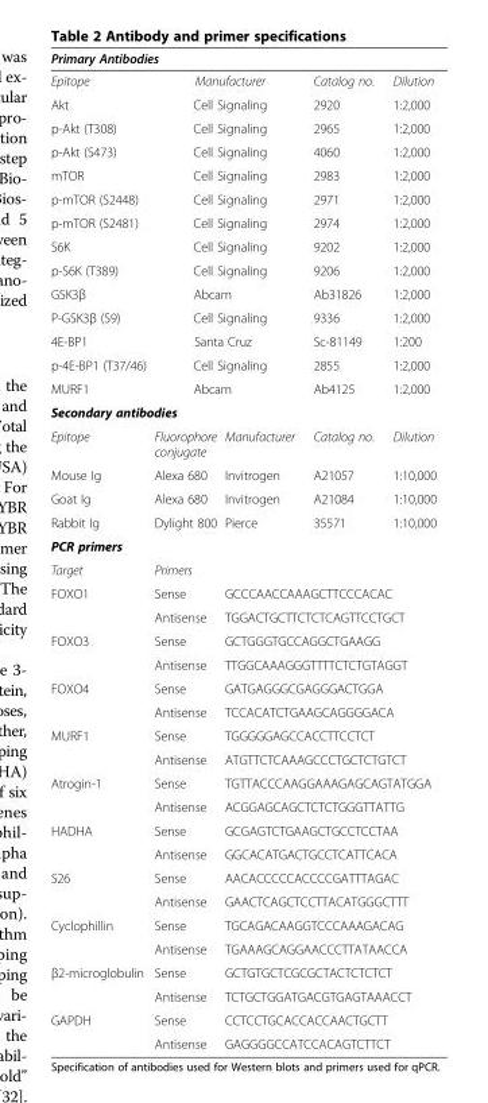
<table><thead><tr><td colspan="5">Primary Antibodies</td></tr></thead><tbody><tr><td>Epitope</td><td colspan="2">Manufacturer</td><td>Catalog no.</td><td>Dilution</td></tr><tr><td>Akt</td><td colspan="2">Cell Signaling</td><td>2920</td><td>1:2,000</td></tr><tr><td>p-Akt (T308)</td><td colspan="2">Cell Signaling</td><td>2965</td><td>1:2,000</td></tr><tr><td>p-Akt (S473)</td><td colspan="2">Cell Signaling</td><td>4060</td><td>1:2,000</td></tr><tr><td>mTOR</td><td colspan="2">Cell Signaling</td><td>2983</td><td>1:2,000</td></tr><tr><td>p-mTOR (S2448)</td><td colspan="2">Cell Signaling</td><td>2971</td><td>1:2,000</td></tr><tr><td>p-mTOR (S2481)</td><td colspan="2">Cell Signaling</td><td>2974</td><td>1:2,000</td></tr><tr><td>S6K</td><td colspan="2">Cell Signaling</td><td>9202</td><td>1:2,000</td></tr><tr><td>p-S6K (T389)</td><td colspan="2">Cell Signaling</td><td>9206</td><td>1:2,000</td></tr><tr><td>GSK3β</td><td colspan="2">Abcam</td><td>Ab31826</td><td>1:2,000</td></tr><tr><td>P-GSK3β (S9)</td><td colspan="2">Cell Signaling</td><td>9336</td><td>1:2,000</td></tr><tr><td>4E-BP1</td><td colspan="2">Santa Cruz</td><td>Sc-81149</td><td>1:200</td></tr><tr><td>p-4E-BP1 (T37/46)</td><td colspan="2">Cell Signaling</td><td>2855</td><td>1:2,000</td></tr><tr><td>MURF1</td><td colspan="2">Abcam</td><td>Ab4125</td><td>1:2,000</td></tr><tr><td colspan="5">Secondary antibodies</td></tr><tr><td>Epitope</td><td>Fluorophore conjugate</td><td>Manufacturer</td><td>Catalog no.</td><td>Dilution</td></tr><tr><td>Mouse Ig</td><td>Alexa 680</td><td>Invitrogen</td><td>A21057</td><td>1:10,000</td></tr><tr><td>Goat Ig</td><td>Alexa 680</td><td>Invitrogen</td><td>A21084</td><td>1:10,000</td></tr><tr><td>Rabbit Ig</td><td>Dylight 800</td><td>Pierce</td><td>35571</td><td>1:10,000</td></tr><tr><td colspan="5">PCR primers</td></tr><tr><td>Target</td><td colspan="4">Primers</td></tr><tr><td rowspan="2">FOXO1</td><td>Sense</td><td colspan="3">GCCCAACCAAAGCTTCCCACAC</td></tr><tr><td>Antisense</td><td colspan="3">TGGACTGCTTCTCTCAGTTCCTGCT</td></tr><tr><td rowspan="2">FOXO3</td><td>Sense</td><td colspan="3">GCTGGGTGCCAGGCTGAAGG</td></tr><tr><td>Antisense</td><td colspan="3">TTGGCAAAGGGTTTTCTCTGTAGGT</td></tr><tr><td rowspan="2">FOXO4</td><td>Sense</td><td colspan="3">GATGAGGGCGAGGGACTGGA</td></tr><tr><td>Antisense</td><td colspan="3">TCCACATCTGAAGCAGGGGACA</td></tr><tr><td rowspan="2">MURF1</td><td>Sense</td><td colspan="3">TGGGGGAGCCACCTTCCTCT</td></tr><tr><td>Antisense</td><td colspan="3">ATGTTCTCAAAGCCCTGCTCTGTCT</td></tr><tr><td rowspan="2">Atrogin-1</td><td>Sense</td><td colspan="3">TGTTACCCAAGGAAAGAGCAGTATGGA</td></tr><tr><td>Antisense</td><td colspan="3">ACGGAGCAGCTCTCTGGGTTATTG</td></tr><tr><td rowspan="2">HADHA</td><td>Sense</td><td colspan="3">GCGAGTCTGAAGCTGCCTCCTAA</td></tr><tr><td>Antisense</td><td colspan="3">GGCACATGACTGCCTCATTCACA</td></tr><tr><td rowspan="2">S26</td><td>Sense</td><td colspan="3">AACACCCCCACCCCGATTTAGAC</td></tr><tr><td>Antisense</td><td colspan="3">GAACTCAGCTCCTTACATGGGCTTT</td></tr><tr><td rowspan="2">Cyclophillin</td><td>Sense</td><td colspan="3">TGCAGACAAGGTCCCAAAGACAG</td></tr><tr><td>Antisense</td><td colspan="3">TGAAAGCAGGAACCCTTATAACCA</td></tr><tr><td rowspan="2">β2-microglobulin</td><td>Sense</td><td colspan="3">GCTGTGCTCGCGCTACTCTCTCT</td></tr><tr><td>Antisense</td><td colspan="3">TCTGCTGGATGACGTGAGTAAACCT</td></tr><tr><td rowspan="2">GAPDH</td><td>Sense</td><td colspan="3">CCTCCTGCACCACCAACTGCTT</td></tr><tr><td>Antisense</td><td colspan="3">GAGGGGCCATCCACAGTCTTCT</td></tr></tbody></table>